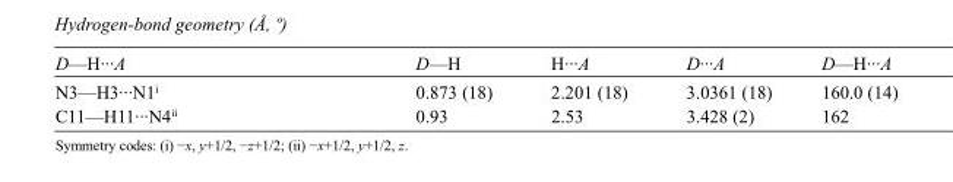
<table><tbody><tr><td>D—H···A</td><td>D—H</td><td>H···A</td><td>D···A</td><td>D—H···A</td></tr><tr><td>N3—H3···N1<sup>i</sup></td><td>0.873 (18)</td><td>2.201 (18)</td><td>3.0361 (18)</td><td>160.0 (14)</td></tr><tr><td>C11—H11···N4<sup>ii</sup></td><td>0.93</td><td>2.53</td><td>3.428 (2)</td><td>162</td></tr></tbody></table>